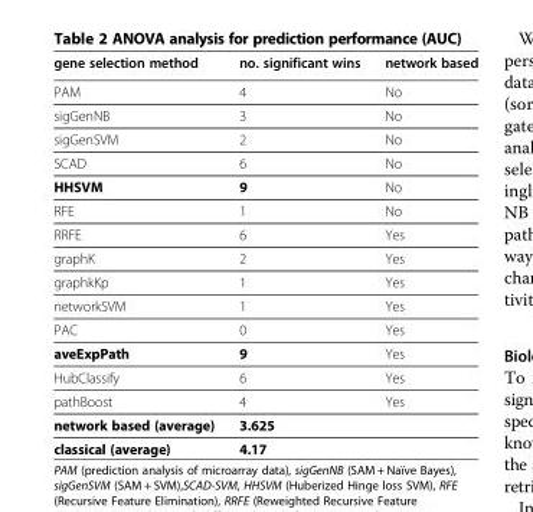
<table><thead><tr><td>gene selection method</td><td>no. significant wins</td><td>network based</td></tr></thead><tbody><tr><td>PAM</td><td>4</td><td>No</td></tr><tr><td>sigGenNB</td><td>3</td><td>No</td></tr><tr><td>sigGenSVM</td><td>2</td><td>No</td></tr><tr><td>SCAD</td><td>6</td><td>No</td></tr><tr><td>HHSVM</td><td>9</td><td>No</td></tr><tr><td>RFE</td><td>1</td><td>No</td></tr><tr><td>RRFE</td><td>6</td><td>Yes</td></tr><tr><td>graphK</td><td>2</td><td>Yes</td></tr><tr><td>graphkKp</td><td>1</td><td>Yes</td></tr><tr><td>networkSVM</td><td>1</td><td>Yes</td></tr><tr><td>PAC</td><td>0</td><td>Yes</td></tr><tr><td>aveExpPath</td><td>9</td><td>Yes</td></tr><tr><td>HubClassify</td><td>6</td><td>Yes</td></tr><tr><td>pathBoost</td><td>4</td><td>Yes</td></tr><tr><td>network based (average)</td><td>3.625</td><td></td></tr><tr><td>classical (average)</td><td>4.17</td><td></td></tr></tbody></table>